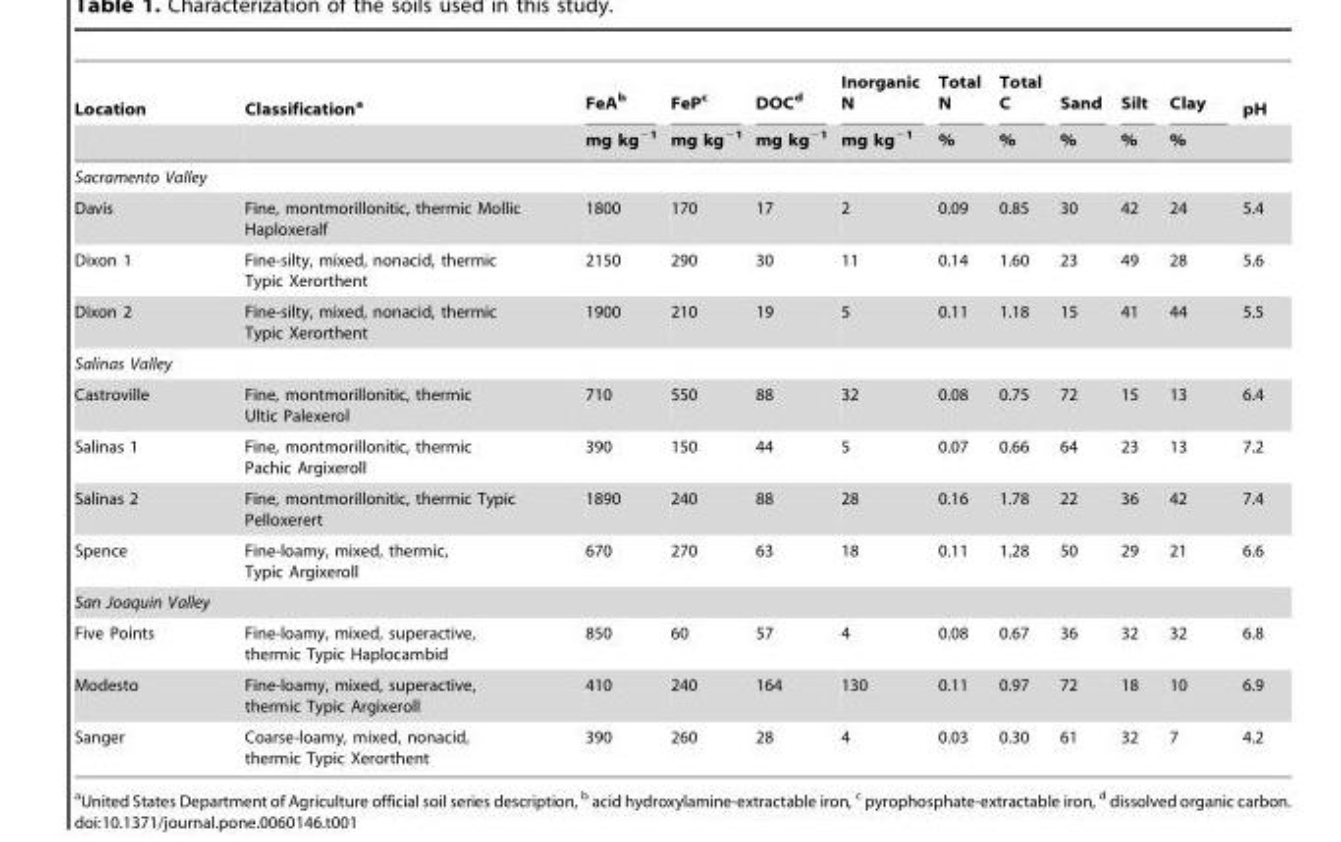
<table><thead><tr><td rowspan="2">Location</td><td rowspan="2">Classification<sup>a</sup></td><td rowspan="2">FeA<sup>b</sup> mg kg<sup>−1</sup></td><td rowspan="2">FeP<sup>c</sup> mg kg<sup>−1</sup></td><td rowspan="2">DOC<sup>d</sup> mg kg<sup>−1</sup></td><td rowspan="2">Inorganic N mg kg<sup>−1</sup></td><td rowspan="2">Total N %</td><td rowspan="2">Total C %</td><td rowspan="2">Sand %</td><td rowspan="2">Silt %</td><td rowspan="2">Clay %</td><td rowspan="2">pH</td></tr><tr></tr></thead><tbody><tr><td colspan="12">Sacramento Valley</td></tr><tr><td>Davis</td><td>Fine, montmorillonitic, thermic Mollic Haploxeralf</td><td>1800</td><td>170</td><td>17</td><td>2</td><td>0.09</td><td>0.85</td><td>30</td><td>42</td><td>24</td><td>5.4</td></tr><tr><td>Dixon 1</td><td>Fine-silty, mixed, nonacid, thermic Typic Xerorthent</td><td>2150</td><td>290</td><td>30</td><td>11</td><td>0.14</td><td>1.60</td><td>23</td><td>49</td><td>28</td><td>5.6</td></tr><tr><td>Dixon 2</td><td>Fine-silty, mixed, nonacid, thermic Typic Xerorthent</td><td>1900</td><td>210</td><td>19</td><td>5</td><td>0.11</td><td>1.18</td><td>15</td><td>41</td><td>44</td><td>5.5</td></tr><tr><td colspan="12">Salinas Valley</td></tr><tr><td>Castroville</td><td>Fine, montmorillonitic, thermic Ultic Palexerol</td><td>710</td><td>550</td><td>88</td><td>32</td><td>0.08</td><td>0.75</td><td>72</td><td>15</td><td>13</td><td>6.4</td></tr><tr><td>Salinas 1</td><td>Fine, montmorillonitic, thermic Pachic Argixeroll</td><td>390</td><td>150</td><td>44</td><td>5</td><td>0.07</td><td>0.66</td><td>64</td><td>23</td><td>13</td><td>7.2</td></tr><tr><td>Salinas 2</td><td>Fine, montmorillonitic, thermic Typic Pelloxerert</td><td>1890</td><td>240</td><td>88</td><td>28</td><td>0.16</td><td>1.78</td><td>22</td><td>36</td><td>42</td><td>7.4</td></tr><tr><td>Spence</td><td>Fine-loamy, mixed, thermic, Typic Argixeroll</td><td>670</td><td>270</td><td>63</td><td>18</td><td>0.11</td><td>1.28</td><td>50</td><td>29</td><td>21</td><td>6.6</td></tr><tr><td colspan="12">San Joaquin Valley</td></tr><tr><td>Five Points</td><td>Fine-loamy, mixed, superactive, thermic Typic Haplocambid</td><td>850</td><td>60</td><td>57</td><td>4</td><td>0.08</td><td>0.67</td><td>36</td><td>32</td><td>32</td><td>6.8</td></tr><tr><td>Modesto</td><td>Fine-loamy, mixed, superactive, thermic Typic Argixeroll</td><td>410</td><td>240</td><td>164</td><td>130</td><td>0.11</td><td>0.97</td><td>72</td><td>18</td><td>10</td><td>6.9</td></tr><tr><td>Sanger</td><td>Coarse-loamy, mixed, nonacid, thermic Typic Xerorthent</td><td>390</td><td>260</td><td>28</td><td>4</td><td>0.03</td><td>0.30</td><td>61</td><td>32</td><td>7</td><td>4.2</td></tr></tbody></table>